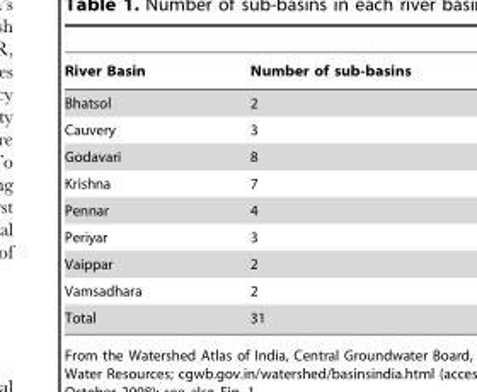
<table><thead><tr><td>River Basin</td><td>Number of sub-basins</td></tr></thead><tbody><tr><td>Bhatsol</td><td>2</td></tr><tr><td>Cauvery</td><td>3</td></tr><tr><td>Godavari</td><td>8</td></tr><tr><td>Krishna</td><td>7</td></tr><tr><td>Pennar</td><td>4</td></tr><tr><td>Periyar</td><td>3</td></tr><tr><td>Vaippar</td><td>2</td></tr><tr><td>Vamsadhara</td><td>2</td></tr><tr><td>Total</td><td>31</td></tr></tbody></table>